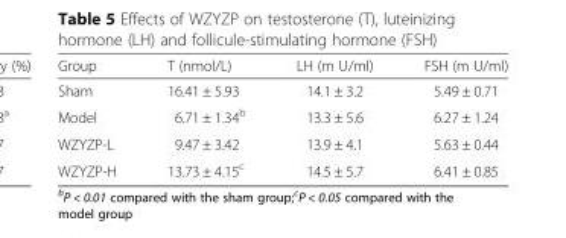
<table><thead><tr><td>Group</td><td>T (nmol/L)</td><td>LH (m U/ml)</td><td>FSH (m U/ml)</td></tr></thead><tbody><tr><td>Sham</td><td>16.41 ± 5.93</td><td>14.1 ± 3.2</td><td>5.49 ± 0.71</td></tr><tr><td>Model</td><td>6.71 ± 1.34<sup>b</sup></td><td>13.3 ± 5.6</td><td>6.27 ± 1.24</td></tr><tr><td>WZYZP-L</td><td>9.47 ± 3.42</td><td>13.9 ± 4.1</td><td>5.63 ± 0.44</td></tr><tr><td>WZYZP-H</td><td>13.73 ± 4.15<sup>c</sup></td><td>14.5 ± 5.7</td><td>6.41 ± 0.85</td></tr></tbody></table>